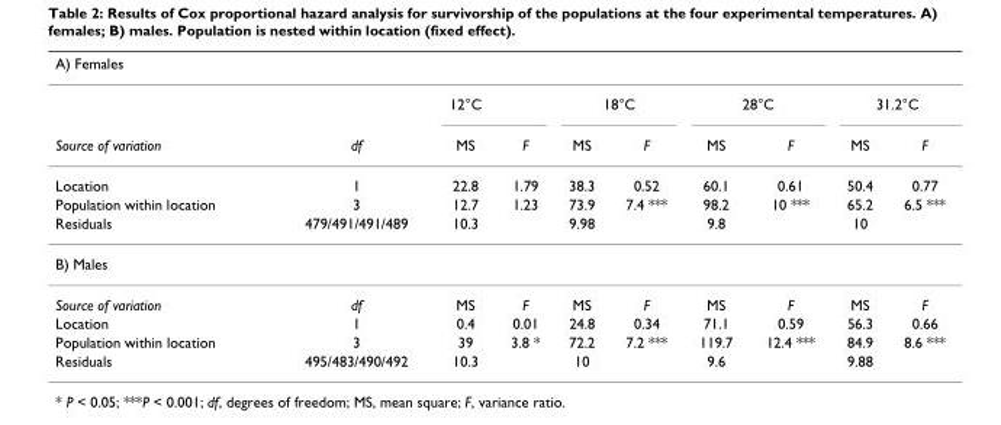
<table><thead><tr><td colspan="10">A) Females</td></tr><tr><td rowspan="2">Source of variation</td><td rowspan="2">df</td><td rowspan="2">12°C MS</td><td rowspan="2">F</td><td colspan="2">18°C</td><td colspan="2">28°C</td><td colspan="2">31.2°C</td></tr><tr><td>MS</td><td>F</td><td>MS</td><td>F</td><td>MS</td><td>F</td></tr></thead><tbody><tr><td>Location</td><td>1</td><td>22.8</td><td>1.79</td><td>38.3</td><td>0.52</td><td>60.1</td><td>0.61</td><td>50.4</td><td>0.77</td></tr><tr><td>Population within location</td><td>3</td><td>12.7</td><td>1.23</td><td>73.9</td><td>7.4 ***</td><td>98.2</td><td>10 ***</td><td>65.2</td><td>6.5 ***</td></tr><tr><td>Residuals</td><td>479/491/491/489</td><td>10.3</td><td></td><td>9.98</td><td></td><td>9.8</td><td></td><td>10</td><td></td></tr><tr><td colspan="10">B) Males</td></tr><tr><td>Source of variation</td><td>df</td><td>MS</td><td>F</td><td>MS</td><td>F</td><td>MS</td><td>F</td><td>MS</td><td>F</td></tr><tr><td>Location</td><td>1</td><td>0.4</td><td>0.01</td><td>24.8</td><td>0.34</td><td>71.1</td><td>0.59</td><td>56.3</td><td>0.66</td></tr><tr><td>Population within location</td><td>3</td><td>39</td><td>3.8 *</td><td>72.2</td><td>7.2 ***</td><td>119.7</td><td>12.4 ***</td><td>84.9</td><td>8.6 ***</td></tr><tr><td>Residuals</td><td>495/483/490/492</td><td>10.3</td><td></td><td>10</td><td></td><td>9.6</td><td></td><td>9.88</td><td></td></tr></tbody></table>